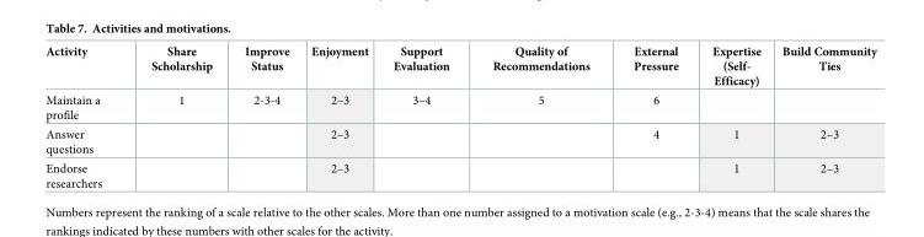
<table><thead><tr><td>Activity</td><td>Share Scholarship</td><td>Improve Status</td><td>Enjoyment</td><td>Support Evaluation</td><td>Quality of Recommendations</td><td>External Pressure</td><td>Expertise (Self- Efficacy)</td><td>Build Community Ties</td></tr></thead><tbody><tr><td>Maintain a profile</td><td>1</td><td>2-3-4</td><td>2–3</td><td>3–4</td><td>5</td><td>6</td><td></td><td></td></tr><tr><td>Answer questions</td><td></td><td></td><td>2–3</td><td></td><td></td><td>4</td><td>1</td><td>2–3</td></tr><tr><td>Endorse researchers</td><td></td><td></td><td>2–3</td><td></td><td></td><td></td><td>1</td><td>2–3</td></tr></tbody></table>